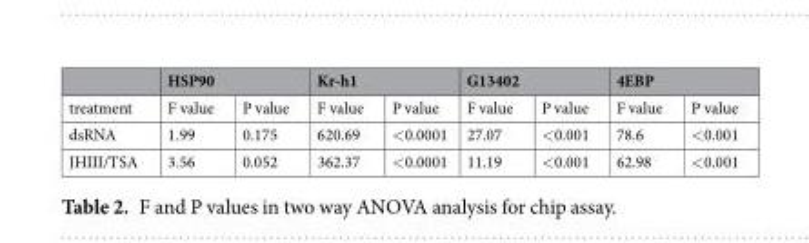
<table><thead><tr><td rowspan="2">treatment</td><td colspan="2">HSP90</td><td colspan="2">Kr-h1</td><td colspan="2">G13402</td><td colspan="2">4EBP</td></tr><tr><td>F value</td><td>P value</td><td>F value</td><td>P value</td><td>F value</td><td>P value</td><td>F value</td><td>P value</td></tr></thead><tbody><tr><td>dsRNA</td><td>1.99</td><td>0.175</td><td>620.69</td><td>&lt;0.0001</td><td>27.07</td><td>&lt;0.001</td><td>78.6</td><td>&lt;0.001</td></tr><tr><td>JHIII/TSA</td><td>3.56</td><td>0.052</td><td>362.37</td><td>&lt;0.0001</td><td>11.19</td><td>&lt;0.001</td><td>62.98</td><td>&lt;0.001</td></tr></tbody></table>